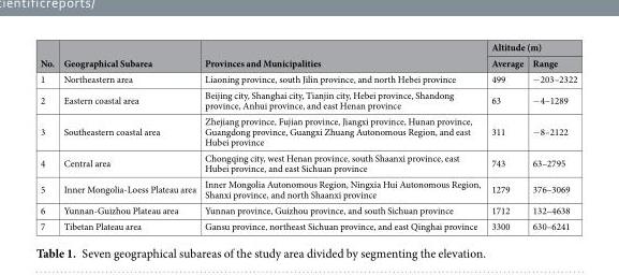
<table><thead><tr><td rowspan="2">No.</td><td rowspan="2">Geographical Subarea</td><td rowspan="2">Provinces and Municipalities</td><td colspan="2">Altitude (m)</td></tr><tr><td>Average</td><td>Range</td></tr></thead><tbody><tr><td>1</td><td>Northeastern area</td><td>Liaoning province, south Jilin province, and north Hebei province</td><td>499</td><td>−203–2322</td></tr><tr><td>2</td><td>Eastern coastal area</td><td>Beijing city, Shanghai city, Tianjin city, Hebei province, Shandong province, Anhui province, and east Henan province</td><td>63</td><td>−4–1289</td></tr><tr><td>3</td><td>Southeastern coastal area</td><td>Zhejiang province, Fujian province, Jiangxi province, Hunan province, Guangdong province, Guangxi Zhuang Autonomous Region, and east Hubei province</td><td>311</td><td>−8–2122</td></tr><tr><td>4</td><td>Central area</td><td>Chongqing city, west Henan province, south Shaanxi province, east Hubei province, and east Sichuan province</td><td>743</td><td>63–2795</td></tr><tr><td>5</td><td>Inner Mongolia-Loess Plateau area</td><td>Inner Mongolia Autonomous Region, Ningxia Hui Autonomous Region, Shanxi province, and north Shaanxi province</td><td>1279</td><td>376–3069</td></tr><tr><td>6</td><td>Yunnan-Guizhou Plateau area</td><td>Yunnan province, Guizhou province, and south Sichuan province</td><td>1712</td><td>132–4638</td></tr><tr><td>7</td><td>Tibetan Plateau area</td><td>Gansu province, northeast Sichuan province, and east Qinghai province</td><td>3300</td><td>630–6241</td></tr></tbody></table>